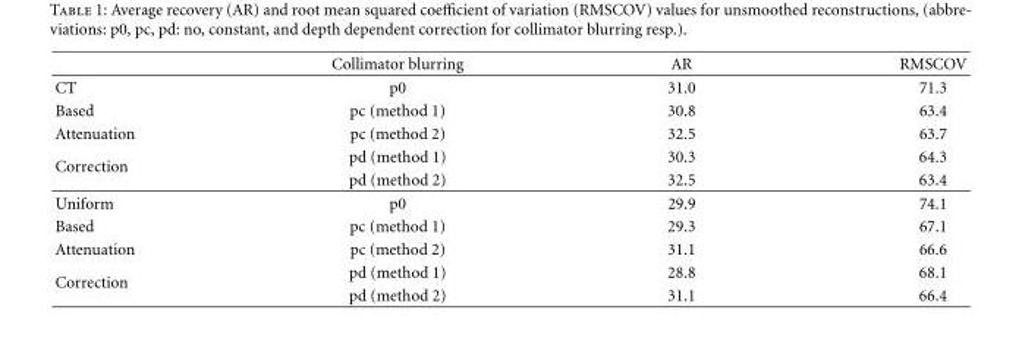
<table><thead><tr><td></td><td>Collimator blurring</td><td>AR</td><td>RMSCOV</td></tr></thead><tbody><tr><td>CT</td><td>p0</td><td>31.0</td><td>71.3</td></tr><tr><td>Based</td><td>pc (method 1)</td><td>30.8</td><td>63.4</td></tr><tr><td>Attenuation</td><td>pc (method 2)</td><td>32.5</td><td>63.7</td></tr><tr><td rowspan="2">Correction</td><td>pd (method 1)</td><td>30.3</td><td>64.3</td></tr><tr><td>pd (method 2)</td><td>32.5</td><td>63.4</td></tr><tr><td>Uniform</td><td>p0</td><td>29.9</td><td>74.1</td></tr><tr><td>Based</td><td>pc (method 1)</td><td>29.3</td><td>67.1</td></tr><tr><td>Attenuation</td><td>pc (method 2)</td><td>31.1</td><td>66.6</td></tr><tr><td rowspan="2">Correction</td><td>pd (method 1)</td><td>28.8</td><td>68.1</td></tr><tr><td>pd (method 2)</td><td>31.1</td><td>66.4</td></tr></tbody></table>